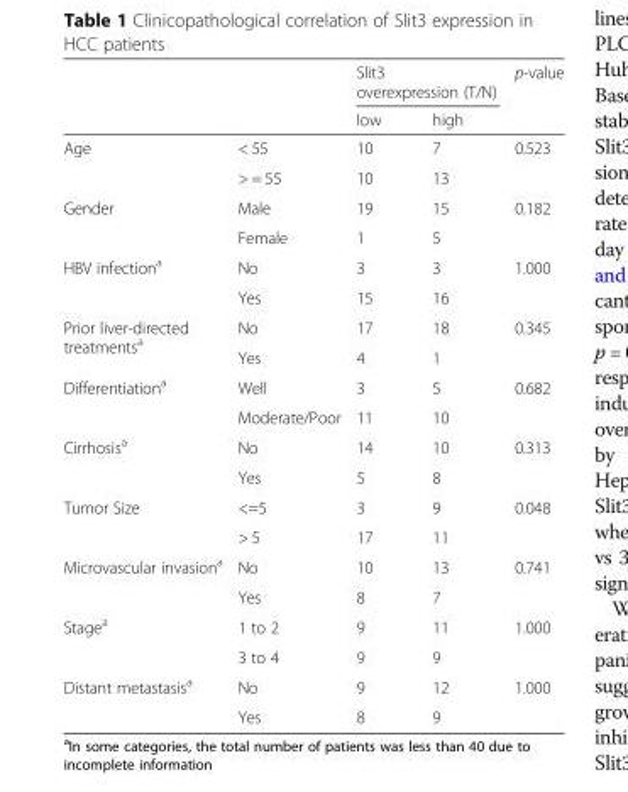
<table><thead><tr><td rowspan="2"></td><td rowspan="2"></td><td colspan="2">Slit3 overexpression (T/N)</td><td rowspan="2">p-value</td></tr><tr><td>low</td><td>high</td></tr></thead><tbody><tr><td rowspan="2">Age</td><td>&lt; 55</td><td>10</td><td>7</td><td rowspan="2">0.523</td></tr><tr><td>&gt; = 55</td><td>10</td><td>13</td></tr><tr><td rowspan="2">Gender</td><td>Male</td><td>19</td><td>15</td><td rowspan="2">0.182</td></tr><tr><td>Female</td><td>1</td><td>5</td></tr><tr><td rowspan="2">HBV infection<sup>a</sup></td><td>No</td><td>3</td><td>3</td><td rowspan="2">1.000</td></tr><tr><td>Yes</td><td>15</td><td>16</td></tr><tr><td rowspan="2">Prior liver-directed treatments<sup>a</sup></td><td>No</td><td>17</td><td>18</td><td rowspan="2">0.345</td></tr><tr><td>Yes</td><td>4</td><td>1</td></tr><tr><td rowspan="2">Differentiation<sup>a</sup></td><td>Well</td><td>3</td><td>5</td><td rowspan="2">0.682</td></tr><tr><td>Moderate/Poor</td><td>11</td><td>10</td></tr><tr><td rowspan="2">Cirrhosis<sup>a</sup></td><td>No</td><td>14</td><td>10</td><td rowspan="2">0.313</td></tr><tr><td>Yes</td><td>5</td><td>8</td></tr><tr><td rowspan="2">Tumor Size</td><td>&lt;=5</td><td>3</td><td>9</td><td rowspan="2">0.048</td></tr><tr><td>&gt; 5</td><td>17</td><td>11</td></tr><tr><td rowspan="2">Microvascular invasion<sup>a</sup></td><td>No</td><td>10</td><td>13</td><td rowspan="2">0.741</td></tr><tr><td>Yes</td><td>8</td><td>7</td></tr><tr><td rowspan="2">Stage<sup>a</sup></td><td>1 to 2</td><td>9</td><td>11</td><td rowspan="2">1.000</td></tr><tr><td>3 to 4</td><td>9</td><td>9</td></tr><tr><td rowspan="2">Distant metastasis<sup>a</sup></td><td>No</td><td>9</td><td>12</td><td rowspan="2">1.000</td></tr><tr><td>Yes</td><td>8</td><td>9</td></tr></tbody></table>